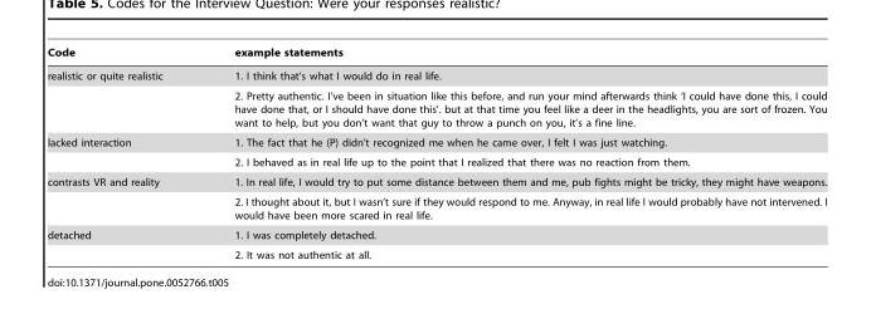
<table><thead><tr><td>Code</td><td>example statements</td></tr></thead><tbody><tr><td rowspan="2">realistic or quite realistic</td><td>1. I think that’s what I would do in real life.</td></tr><tr><td>2. Pretty authentic. I’ve been in situation like this before, and run your mind afterwards think ‘I could have done this, I could have done that, or I should have done this’. but at that time you feel like a deer in the headlights, you are sort of frozen. You want to help, but you don’t want that guy to throw a punch on you, it’s a fine line.</td></tr><tr><td rowspan="2">lacked interaction</td><td>1. The fact that he (P) didn’t recognized me when he came over, I felt I was just watching.</td></tr><tr><td>2. I behaved as in real life up to the point that I realized that there was no reaction from them.</td></tr><tr><td rowspan="2">contrasts VR and reality</td><td>1. In real life, I would try to put some distance between them and me, pub fights might be tricky, they might have weapons.</td></tr><tr><td>2. I thought about it, but I wasn’t sure if they would respond to me. Anyway, in real life I would probably have not intervened. I would have been more scared in real life.</td></tr><tr><td rowspan="2">detached</td><td>1. I was completely detached.</td></tr><tr><td>2. It was not authentic at all.</td></tr></tbody></table>